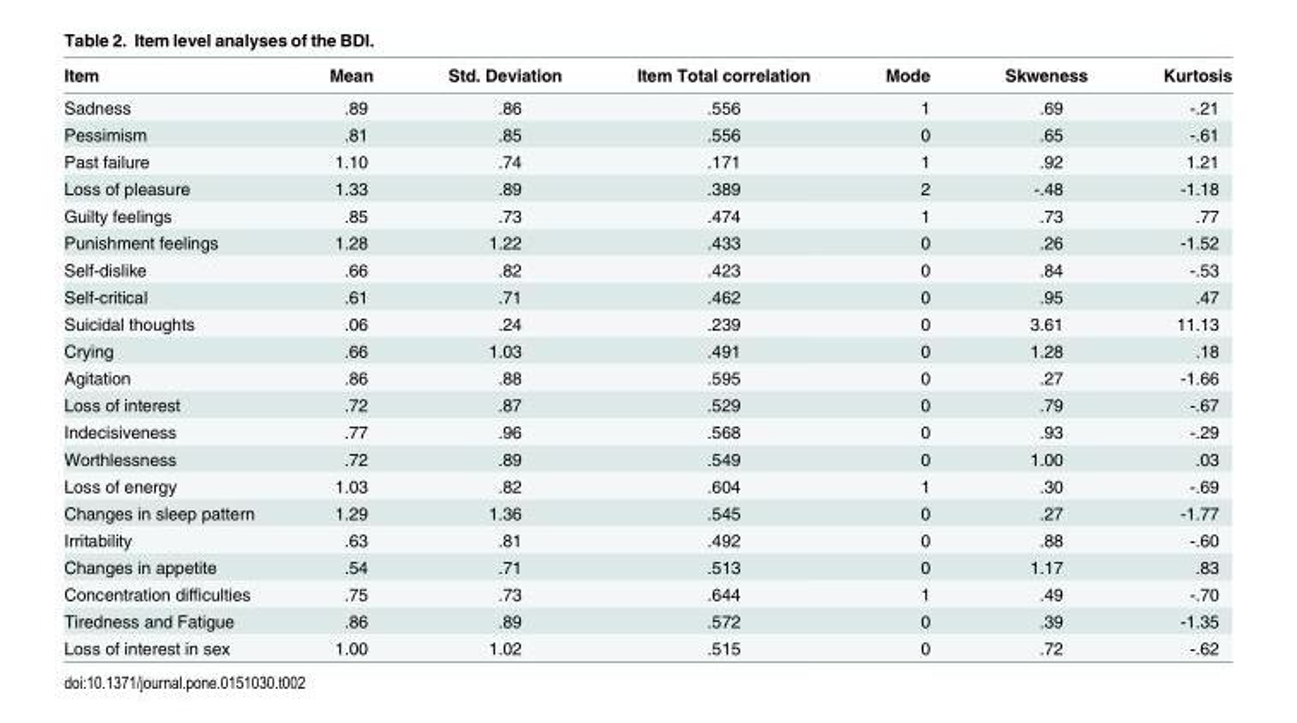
<table><thead><tr><td>Item</td><td>Mean</td><td>Std. Deviation</td><td>Item Total correlation</td><td>Mode</td><td>Skweness</td><td>Kurtosis</td></tr></thead><tbody><tr><td>Sadness</td><td>.89</td><td>.86</td><td>.556</td><td>1</td><td>.69</td><td>-.21</td></tr><tr><td>Pessimism</td><td>.81</td><td>.85</td><td>.556</td><td>0</td><td>.65</td><td>-.61</td></tr><tr><td>Past failure</td><td>1.10</td><td>.74</td><td>.171</td><td>1</td><td>.92</td><td>1.21</td></tr><tr><td>Loss of pleasure</td><td>1.33</td><td>.89</td><td>.389</td><td>2</td><td>-.48</td><td>-1.18</td></tr><tr><td>Guilty feelings</td><td>.85</td><td>.73</td><td>.474</td><td>1</td><td>.73</td><td>.77</td></tr><tr><td>Punishment feelings</td><td>1.28</td><td>1.22</td><td>.433</td><td>0</td><td>.26</td><td>-1.52</td></tr><tr><td>Self-dislike</td><td>.66</td><td>.82</td><td>.423</td><td>0</td><td>.84</td><td>-.53</td></tr><tr><td>Self-critical</td><td>.61</td><td>.71</td><td>.462</td><td>0</td><td>.95</td><td>.47</td></tr><tr><td>Suicidal thoughts</td><td>.06</td><td>.24</td><td>.239</td><td>0</td><td>3.61</td><td>11.13</td></tr><tr><td>Crying</td><td>.66</td><td>1.03</td><td>.491</td><td>0</td><td>1.28</td><td>.18</td></tr><tr><td>Agitation</td><td>.86</td><td>.88</td><td>.595</td><td>0</td><td>.27</td><td>-1.66</td></tr><tr><td>Loss of interest</td><td>.72</td><td>.87</td><td>.529</td><td>0</td><td>.79</td><td>-.67</td></tr><tr><td>Indecisiveness</td><td>.77</td><td>.96</td><td>.568</td><td>0</td><td>.93</td><td>-.29</td></tr><tr><td>Worthlessness</td><td>.72</td><td>.89</td><td>.549</td><td>0</td><td>1.00</td><td>.03</td></tr><tr><td>Loss of energy</td><td>1.03</td><td>.82</td><td>.604</td><td>1</td><td>.30</td><td>-.69</td></tr><tr><td>Changes in sleep pattern</td><td>1.29</td><td>1.36</td><td>.545</td><td>0</td><td>.27</td><td>-1.77</td></tr><tr><td>Irritability</td><td>.63</td><td>.81</td><td>.492</td><td>0</td><td>.88</td><td>-.60</td></tr><tr><td>Changes in appetite</td><td>.54</td><td>.71</td><td>.513</td><td>0</td><td>1.17</td><td>.83</td></tr><tr><td>Concentration difficulties</td><td>.75</td><td>.73</td><td>.644</td><td>1</td><td>.49</td><td>-.70</td></tr><tr><td>Tiredness and Fatigue</td><td>.86</td><td>.89</td><td>.572</td><td>0</td><td>.39</td><td>-1.35</td></tr><tr><td>Loss of interest in sex</td><td>1.00</td><td>1.02</td><td>.515</td><td>0</td><td>.72</td><td>-.62</td></tr></tbody></table>